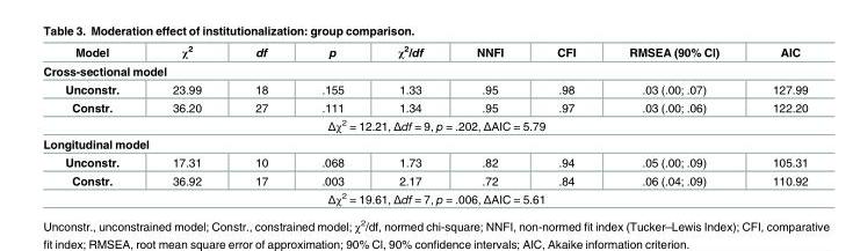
<table><thead><tr><td>Model</td><td>χ<sup>2</sup></td><td>df</td><td>p</td><td>χ<sup>2</sup>/df</td><td>NNFI</td><td>CFI</td><td>RMSEA (90% Cl)</td><td>AIC</td></tr></thead><tbody><tr><td colspan="9">Cross-sectional model</td></tr><tr><td>Unconstr.</td><td>23.99</td><td>18</td><td>.155</td><td>1.33</td><td>.95</td><td>.98</td><td>.03 (.00; .07)</td><td>127.99</td></tr><tr><td>Constr.</td><td>36.20</td><td>27</td><td>.111</td><td>1.34</td><td>.95</td><td>.97</td><td>.03 (.00; .06)</td><td>122.20</td></tr><tr><td colspan="9">Δχ<sup>2</sup> = 12.21, Δdf = 9, p = .202, ΔAIC = 5.79</td></tr><tr><td colspan="9">Longitudinal model</td></tr><tr><td>Unconstr.</td><td>17.31</td><td>10</td><td>.068</td><td>1.73</td><td>.82</td><td>.94</td><td>.05 (.00; .09)</td><td>105.31</td></tr><tr><td>Constr.</td><td>36.92</td><td>17</td><td>.003</td><td>2.17</td><td>.72</td><td>.84</td><td>.06 (.04; .09)</td><td>110.92</td></tr><tr><td colspan="9">Δχ<sup>2</sup> = 19.61, Δdf = 7, p = .006, ΔAIC = 5.61</td></tr></tbody></table>